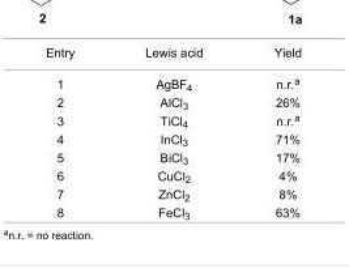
<table><tbody><tr><td>Entry</td><td>Lewis acid</td><td>Yield</td></tr><tr><td>1</td><td>AgBF<sub>4</sub></td><td>n.r.<sup>a</sup></td></tr><tr><td>2</td><td>AlCl<sub>3</sub></td><td>26%</td></tr><tr><td>3</td><td>TiCl<sub>4</sub></td><td>n.r.<sup>a</sup></td></tr><tr><td>4</td><td>InCl<sub>3</sub></td><td>71%</td></tr><tr><td>5</td><td>BiCl<sub>3</sub></td><td>17%</td></tr><tr><td>6</td><td>CuCl<sub>2</sub></td><td>4%</td></tr><tr><td>7</td><td>ZnCl<sub>2</sub></td><td>8%</td></tr><tr><td>8</td><td>FeCl<sub>3</sub></td><td>63%</td></tr></tbody></table>